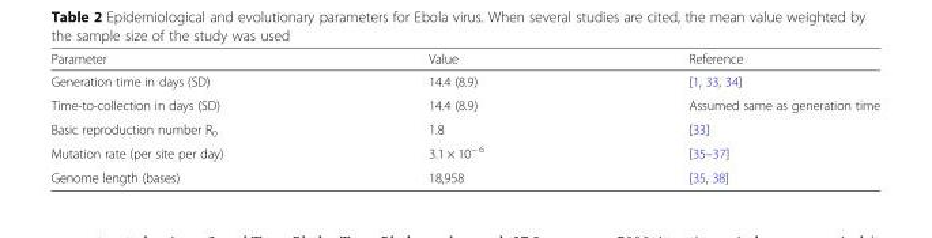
<table><thead><tr><td>Parameter</td><td>Value</td><td>Reference</td></tr></thead><tbody><tr><td>Generation time in days (SD)</td><td>14.4 (8.9)</td><td>[1, 33, 34]</td></tr><tr><td>Time-to-collection in days (SD)</td><td>14.4 (8.9)</td><td>Assumed same as generation time</td></tr><tr><td>Basic reproduction number R<sub>0</sub></td><td>1.8</td><td>[33]</td></tr><tr><td>Mutation rate (per site per day)</td><td>3.1 × 10<sup>− 6</sup></td><td>[35–37]</td></tr><tr><td>Genome length (bases)</td><td>18,958</td><td>[35, 38]</td></tr></tbody></table>